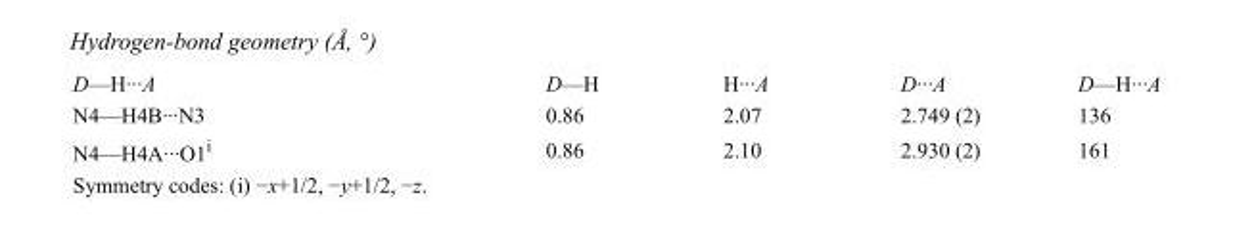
<table><tbody><tr><td>D—H···A</td><td>D—H</td><td>H···A</td><td>D···A</td><td>D—H···A</td></tr><tr><td>N4—H4B···N3</td><td>0.86</td><td>2.07</td><td>2.749 (2)</td><td>136</td></tr><tr><td>N4—H4A···O1<sup>i</sup></td><td>0.86</td><td>2.10</td><td>2.930 (2)</td><td>161</td></tr></tbody></table>